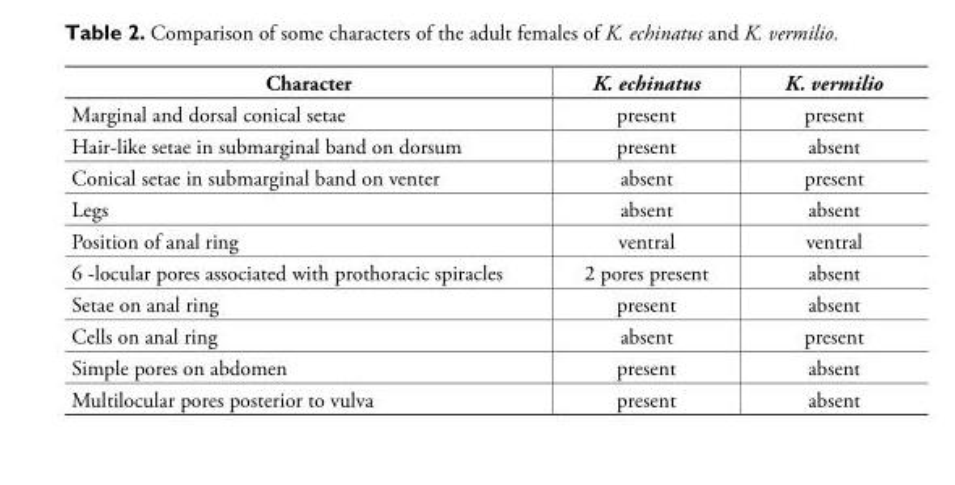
<table><thead><tr><td>Character</td><td>K. echinatus</td><td>K. vermilio</td></tr></thead><tbody><tr><td>Marginal and dorsal conical setae</td><td>present</td><td>present</td></tr><tr><td>Hair-like setae in submarginal band on dorsum</td><td>present</td><td>absent</td></tr><tr><td>Conical setae in submarginal band on venter</td><td>absent</td><td>present</td></tr><tr><td>Legs</td><td>absent</td><td>absent</td></tr><tr><td>Position of anal ring</td><td>ventral</td><td>ventral</td></tr><tr><td>6 -locular pores associated with prothoracic spiracles</td><td>2 pores present</td><td>absent</td></tr><tr><td>Setae on anal ring</td><td>present</td><td>absent</td></tr><tr><td>Cells on anal ring</td><td>absent</td><td>present</td></tr><tr><td>Simple pores on abdomen</td><td>present</td><td>absent</td></tr><tr><td>Multilocular pores posterior to vulva</td><td>present</td><td>absent</td></tr></tbody></table>